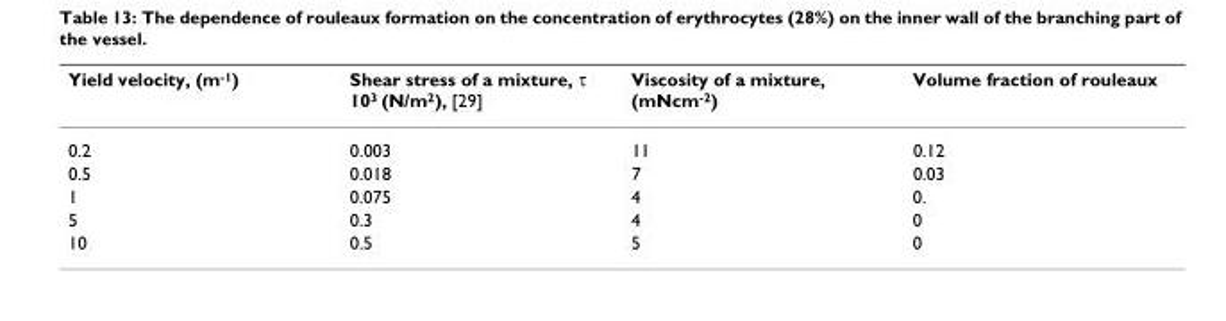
<table><thead><tr><td>Yield velocity, (m<sup>-1</sup>)</td><td>Shear stress of a mixture, τ 10<sup>3</sup> (N/m<sup>2</sup>), [29]</td><td>Viscosity of a mixture, (mNcm<sup>-2</sup>)</td><td>Volume fraction of rouleaux</td></tr></thead><tbody><tr><td>0.2</td><td>0.003</td><td>11</td><td>0.12</td></tr><tr><td>0.5</td><td>0.018</td><td>7</td><td>0.03</td></tr><tr><td>1</td><td>0.075</td><td>4</td><td>0.</td></tr><tr><td>5</td><td>0.3</td><td>4</td><td>0</td></tr><tr><td>10</td><td>0.5</td><td>5</td><td>0</td></tr></tbody></table>